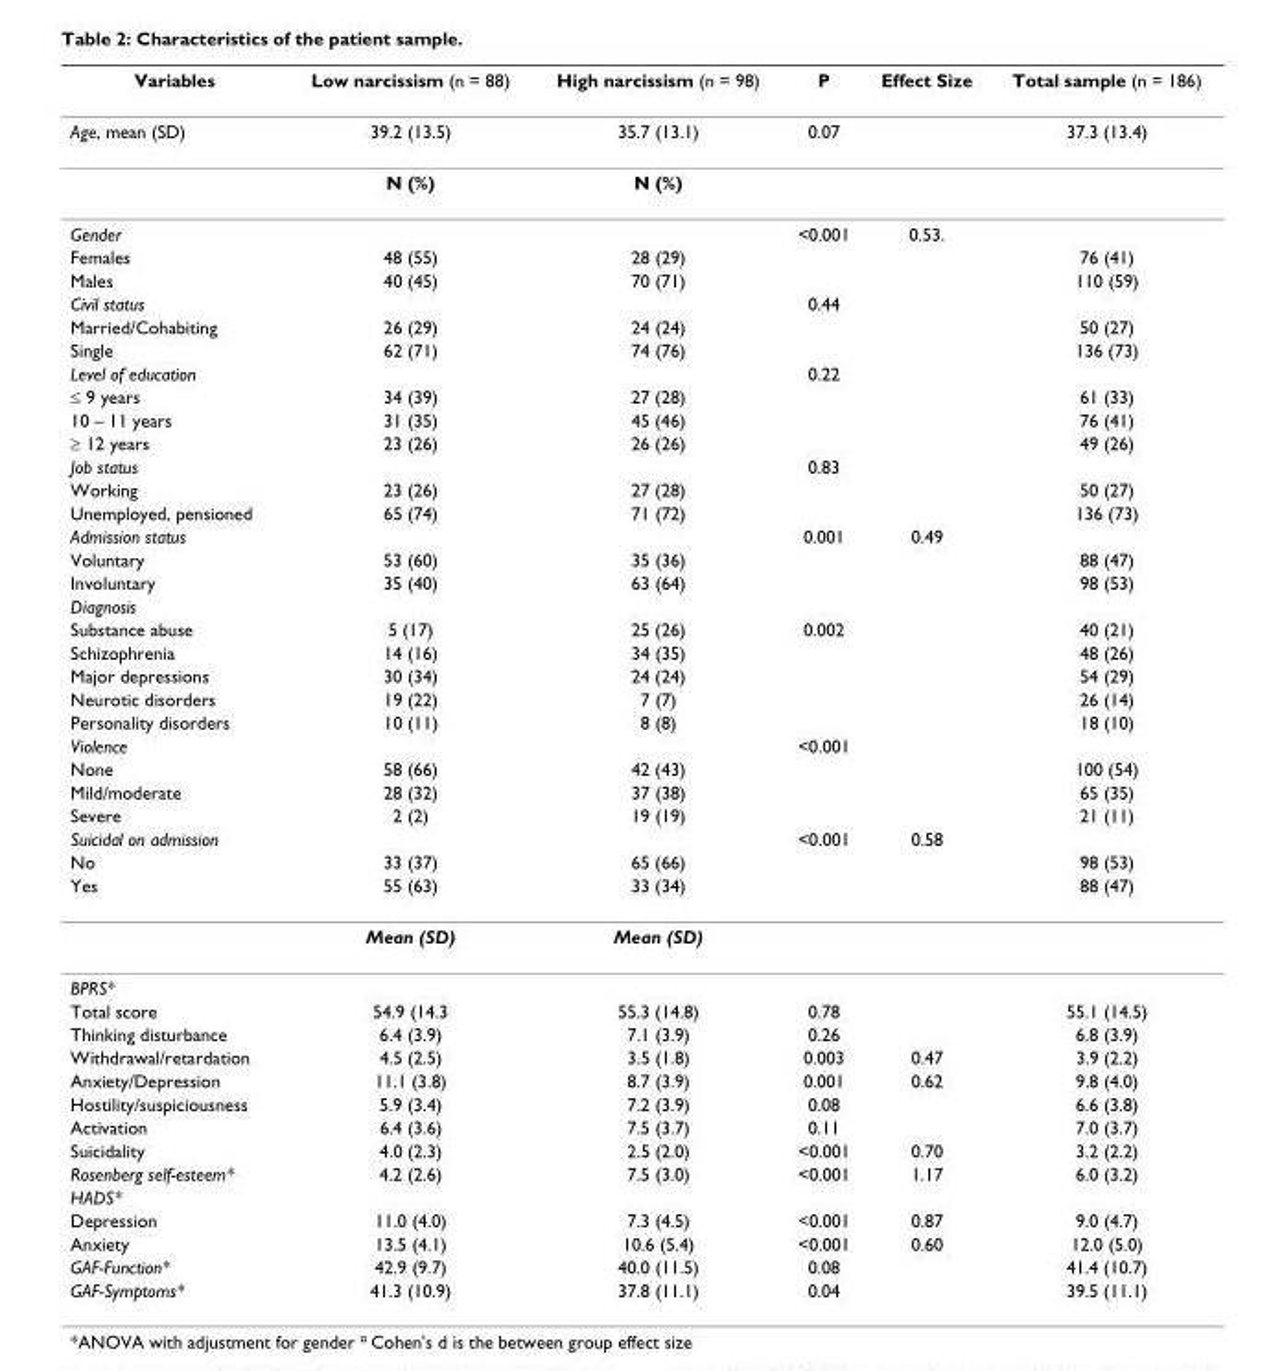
<table><thead><tr><td>Variables</td><td>Low narcissism (n = 88)</td><td>High narcissism (n = 98)</td><td>P</td><td>Effect Size</td><td>Total sample (n = 186)</td></tr></thead><tbody><tr><td rowspan="2">Age, mean (SD)</td><td>39.2 (13.5)</td><td>35.7 (13.1)</td><td>0.07</td><td></td><td>37.3 (13.4)</td></tr><tr><td>N (%)</td><td>N (%)</td><td></td><td></td><td></td></tr><tr><td>Gender</td><td></td><td></td><td>&lt;0.001</td><td>0.53.</td><td></td></tr><tr><td>Females</td><td>48 (55)</td><td>28 (29)</td><td></td><td></td><td>76 (41)</td></tr><tr><td>Males</td><td>40 (45)</td><td>70 (71)</td><td></td><td></td><td>110 (59)</td></tr><tr><td>Civil status</td><td></td><td></td><td>0.44</td><td></td><td></td></tr><tr><td>Married/Cohabiting</td><td>26 (29)</td><td>24 (24)</td><td></td><td></td><td>50 (27)</td></tr><tr><td>Single</td><td>62 (71)</td><td>74 (76)</td><td></td><td></td><td>136 (73)</td></tr><tr><td>Level of education</td><td></td><td></td><td>0.22</td><td></td><td></td></tr><tr><td>≤ 9 years</td><td>34 (39)</td><td>27 (28)</td><td></td><td></td><td>61 (33)</td></tr><tr><td>10 – 11 years</td><td>31 (35)</td><td>45 (46)</td><td></td><td></td><td>76 (41)</td></tr><tr><td>≥ 12 years</td><td>23 (26)</td><td>26 (26)</td><td></td><td></td><td>49 (26)</td></tr><tr><td>Job status</td><td></td><td></td><td>0.83</td><td></td><td></td></tr><tr><td>Working</td><td>23 (26)</td><td>27 (28)</td><td></td><td></td><td>50 (27)</td></tr><tr><td>Unemployed, pensioned</td><td>65 (74)</td><td>71 (72)</td><td></td><td></td><td>136 (73)</td></tr><tr><td>Admission status</td><td></td><td></td><td>0.001</td><td>0.49</td><td></td></tr><tr><td>Voluntary</td><td>53 (60)</td><td>35 (36)</td><td></td><td></td><td>88 (47)</td></tr><tr><td>Involuntary</td><td>35 (40)</td><td>63 (64)</td><td></td><td></td><td>98 (53)</td></tr><tr><td colspan="6">Diagnosis</td></tr><tr><td>Substance abuse</td><td>5 (17)</td><td>25 (26)</td><td>0.002</td><td></td><td>40 (21)</td></tr><tr><td>Schizophrenia</td><td>14 (16)</td><td>34 (35)</td><td></td><td></td><td>48 (26)</td></tr><tr><td>Major depressions</td><td>30 (34)</td><td>24 (24)</td><td></td><td></td><td>54 (29)</td></tr><tr><td>Neurotic disorders</td><td>19 (22)</td><td>7 (7)</td><td></td><td></td><td>26 (14)</td></tr><tr><td>Personality disorders</td><td>10 (11)</td><td>8 (8)</td><td></td><td></td><td>18 (10)</td></tr><tr><td>Violence</td><td></td><td></td><td>&lt;0.001</td><td></td><td></td></tr><tr><td>None</td><td>58 (66)</td><td>42 (43)</td><td></td><td></td><td>100 (54)</td></tr><tr><td>Mild/moderate</td><td>28 (32)</td><td>37 (38)</td><td></td><td></td><td>65 (35)</td></tr><tr><td>Severe</td><td>2 (2)</td><td>19 (19)</td><td></td><td></td><td>21 (11)</td></tr><tr><td>Suicidal on admission</td><td></td><td></td><td>&lt;0.001</td><td>0.58</td><td></td></tr><tr><td>No</td><td>33 (37)</td><td>65 (66)</td><td></td><td></td><td>98 (53)</td></tr><tr><td rowspan="2">Yes</td><td>55 (63)</td><td>33 (34)</td><td></td><td></td><td>88 (47)</td></tr><tr><td>Mean (SD)</td><td>Mean (SD)</td><td></td><td></td><td></td></tr><tr><td colspan="6">BPRS*</td></tr><tr><td>Total score</td><td>54.9 (14.3</td><td>55.3 (14.8)</td><td>0.78</td><td></td><td>55.1 (14.5)</td></tr><tr><td>Thinking disturbance</td><td>6.4 (3.9)</td><td>7.1 (3.9)</td><td>0.26</td><td></td><td>6.8 (3.9)</td></tr><tr><td>Withdrawal/retardation</td><td>4.5 (2.5)</td><td>3.5 (1.8)</td><td>0.003</td><td>0.47</td><td>3.9 (2.2)</td></tr><tr><td>Anxiety/Depression</td><td>11.1 (3.8)</td><td>8.7 (3.9)</td><td>0.001</td><td>0.62</td><td>9.8 (4.0)</td></tr><tr><td>Hostility/suspiciousness</td><td>5.9 (3.4)</td><td>7.2 (3.9)</td><td>0.08</td><td></td><td>6.6 (3.8)</td></tr><tr><td>Activation</td><td>6.4 (3.6)</td><td>7.5 (3.7)</td><td>0.11</td><td></td><td>7.0 (3.7)</td></tr><tr><td>Suicidality</td><td>4.0 (2.3)</td><td>2.5 (2.0)</td><td>&lt;0.001</td><td>0.70</td><td>3.2 (2.2)</td></tr><tr><td>Rosenberg self-esteem*</td><td>4.2 (2.6)</td><td>7.5 (3.0)</td><td>&lt;0.001</td><td>1.17</td><td>6.0 (3.2)</td></tr><tr><td colspan="6">HADS*</td></tr><tr><td>Depression</td><td>11.0 (4.0)</td><td>7.3 (4.5)</td><td>&lt;0.001</td><td>0.87</td><td>9.0 (4.7)</td></tr><tr><td>Anxiety</td><td>13.5 (4.1)</td><td>10.6 (5.4)</td><td>&lt;0.001</td><td>0.60</td><td>12.0 (5.0)</td></tr><tr><td>GAF-Function*</td><td>42.9 (9.7)</td><td>40.0 (11.5)</td><td>0.08</td><td></td><td>41.4 (10.7)</td></tr><tr><td>GAF-Symptoms*</td><td>41.3 (10.9)</td><td>37.8 (11.1)</td><td>0.04</td><td></td><td>39.5 (11.1)</td></tr></tbody></table>